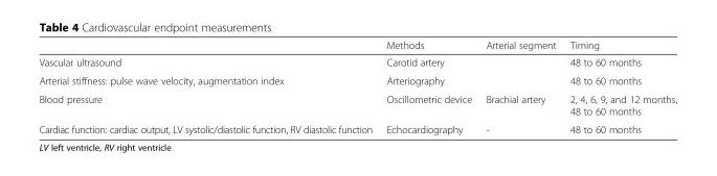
<table><thead><tr><td></td><td>Methods</td><td>Arterial segment</td><td>Timing</td></tr></thead><tbody><tr><td>Vascular ultrasound</td><td>Carotid artery</td><td></td><td>48 to 60 months</td></tr><tr><td>Arterial stiffness: pulse wave velocity, augmentation index</td><td>Arteriography</td><td></td><td>48 to 60 months</td></tr><tr><td>Blood pressure</td><td>Oscillometric device</td><td>Brachial artery</td><td>2, 4, 6, 9, and 12 months, 48 to 60 months</td></tr><tr><td>Cardiac function: cardiac output, LV systolic/diastolic function, RV diastolic function</td><td>Echocardiography</td><td>-</td><td>48 to 60 months</td></tr></tbody></table>